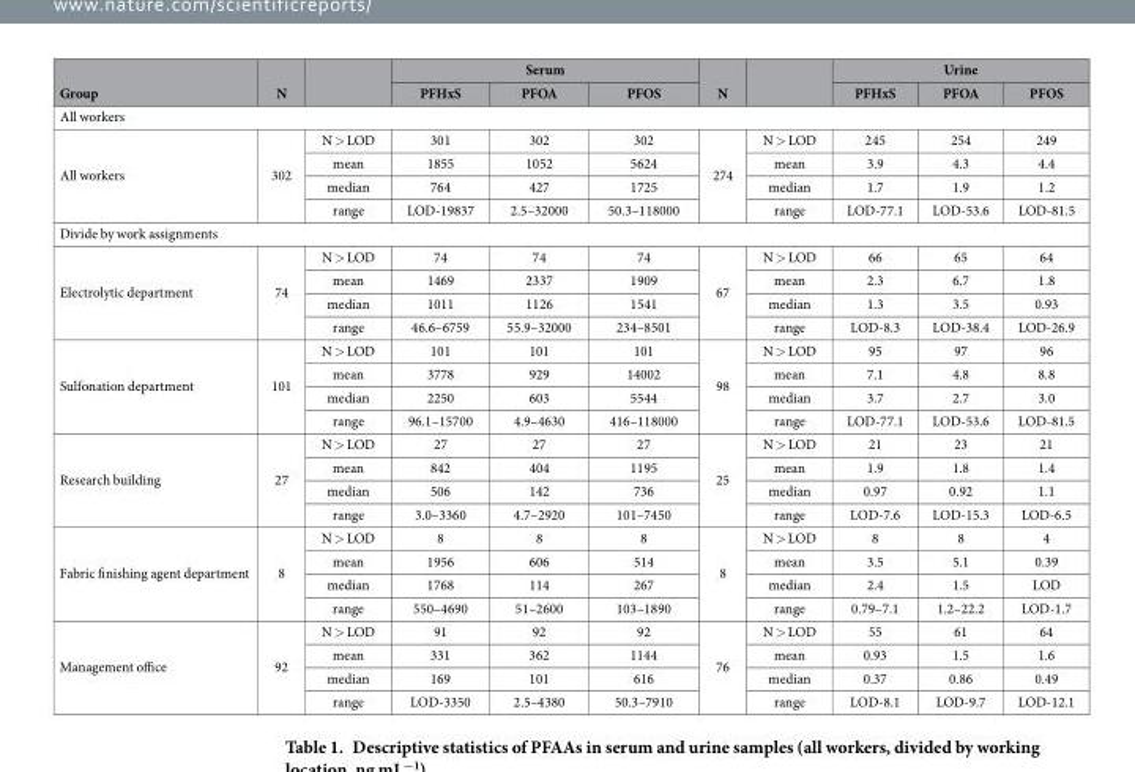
<table><thead><tr><td rowspan="2">Group</td><td rowspan="2">N</td><td rowspan="2"></td><td colspan="3">Serum</td><td rowspan="2">N</td><td rowspan="2"></td><td colspan="3">Urine</td></tr><tr><td>PFHxS</td><td>PFOA</td><td>PFOS</td><td>PFHxS</td><td>PFOA</td><td>PFOS</td></tr></thead><tbody><tr><td colspan="11">All workers</td></tr><tr><td rowspan="4">All workers</td><td rowspan="4">302</td><td>N &gt; LOD</td><td>301</td><td>302</td><td>302</td><td rowspan="4">274</td><td>N &gt; LOD</td><td>245</td><td>254</td><td>249</td></tr><tr><td>mean</td><td>1855</td><td>1052</td><td>5624</td><td>mean</td><td>3.9</td><td>4.3</td><td>4.4</td></tr><tr><td>median</td><td>764</td><td>427</td><td>1725</td><td>median</td><td>1.7</td><td>1.9</td><td>1.2</td></tr><tr><td>range</td><td>LOD-19837</td><td>2.5–32000</td><td>50.3–118000</td><td>range</td><td>LOD-77.1</td><td>LOD-53.6</td><td>LOD-81.5</td></tr><tr><td colspan="11">Divide by work assignments</td></tr><tr><td rowspan="4">Electrolytic department</td><td rowspan="4">74</td><td>N &gt; LOD</td><td>74</td><td>74</td><td>74</td><td rowspan="4">67</td><td>N &gt; LOD</td><td>66</td><td>65</td><td>64</td></tr><tr><td>mean</td><td>1469</td><td>2337</td><td>1909</td><td>mean</td><td>2.3</td><td>6.7</td><td>1.8</td></tr><tr><td>median</td><td>1011</td><td>1126</td><td>1541</td><td>median</td><td>1.3</td><td>3.5</td><td>0.93</td></tr><tr><td>range</td><td>46.6–6759</td><td>55.9–32000</td><td>234–8501</td><td>range</td><td>LOD-8.3</td><td>LOD-38.4</td><td>LOD-26.9</td></tr><tr><td rowspan="4">Sulfonation department</td><td rowspan="4">101</td><td>N &gt; LOD</td><td>101</td><td>101</td><td>101</td><td rowspan="4">98</td><td>N &gt; LOD</td><td>95</td><td>97</td><td>96</td></tr><tr><td>mean</td><td>3778</td><td>929</td><td>14002</td><td>mean</td><td>7.1</td><td>4.8</td><td>8.8</td></tr><tr><td>median</td><td>2250</td><td>603</td><td>5544</td><td>median</td><td>3.7</td><td>2.7</td><td>3.0</td></tr><tr><td>range</td><td>96.1–15700</td><td>4.9–4630</td><td>416–118000</td><td>range</td><td>LOD-77.1</td><td>LOD-53.6</td><td>LOD-81.5</td></tr><tr><td rowspan="4">Research building</td><td rowspan="4">27</td><td>N &gt; LOD</td><td>27</td><td>27</td><td>27</td><td rowspan="4">25</td><td>N &gt; LOD</td><td>21</td><td>23</td><td>21</td></tr><tr><td>mean</td><td>842</td><td>404</td><td>1195</td><td>mean</td><td>1.9</td><td>1.8</td><td>1.4</td></tr><tr><td>median</td><td>506</td><td>142</td><td>736</td><td>median</td><td>0.97</td><td>0.92</td><td>1.1</td></tr><tr><td>range</td><td>3.0–3360</td><td>4.7–2920</td><td>101–7450</td><td>range</td><td>LOD-7.6</td><td>LOD-15.3</td><td>LOD-6.5</td></tr><tr><td rowspan="4">Fabric finishing agent department</td><td rowspan="4">8</td><td>N &gt; LOD</td><td>8</td><td>8</td><td>8</td><td rowspan="4">8</td><td>N &gt; LOD</td><td>8</td><td>8</td><td>4</td></tr><tr><td>mean</td><td>1956</td><td>606</td><td>514</td><td>mean</td><td>3.5</td><td>5.1</td><td>0.39</td></tr><tr><td>median</td><td>1768</td><td>114</td><td>267</td><td>median</td><td>2.4</td><td>1.5</td><td>LOD</td></tr><tr><td>range</td><td>550–4690</td><td>51–2600</td><td>103–1890</td><td>range</td><td>0.79–7.1</td><td>1.2–22.2</td><td>LOD-1.7</td></tr><tr><td rowspan="4">Management office</td><td rowspan="4">92</td><td>N &gt; LOD</td><td>91</td><td>92</td><td>92</td><td rowspan="4">76</td><td>N &gt; LOD</td><td>55</td><td>61</td><td>64</td></tr><tr><td>mean</td><td>331</td><td>362</td><td>1144</td><td>mean</td><td>0.93</td><td>1.5</td><td>1.6</td></tr><tr><td>median</td><td>169</td><td>101</td><td>616</td><td>median</td><td>0.37</td><td>0.86</td><td>0.49</td></tr><tr><td>range</td><td>LOD-3350</td><td>2.5–4380</td><td>50.3–7910</td><td>range</td><td>LOD-8.1</td><td>LOD-9.7</td><td>LOD-12.1</td></tr></tbody></table>